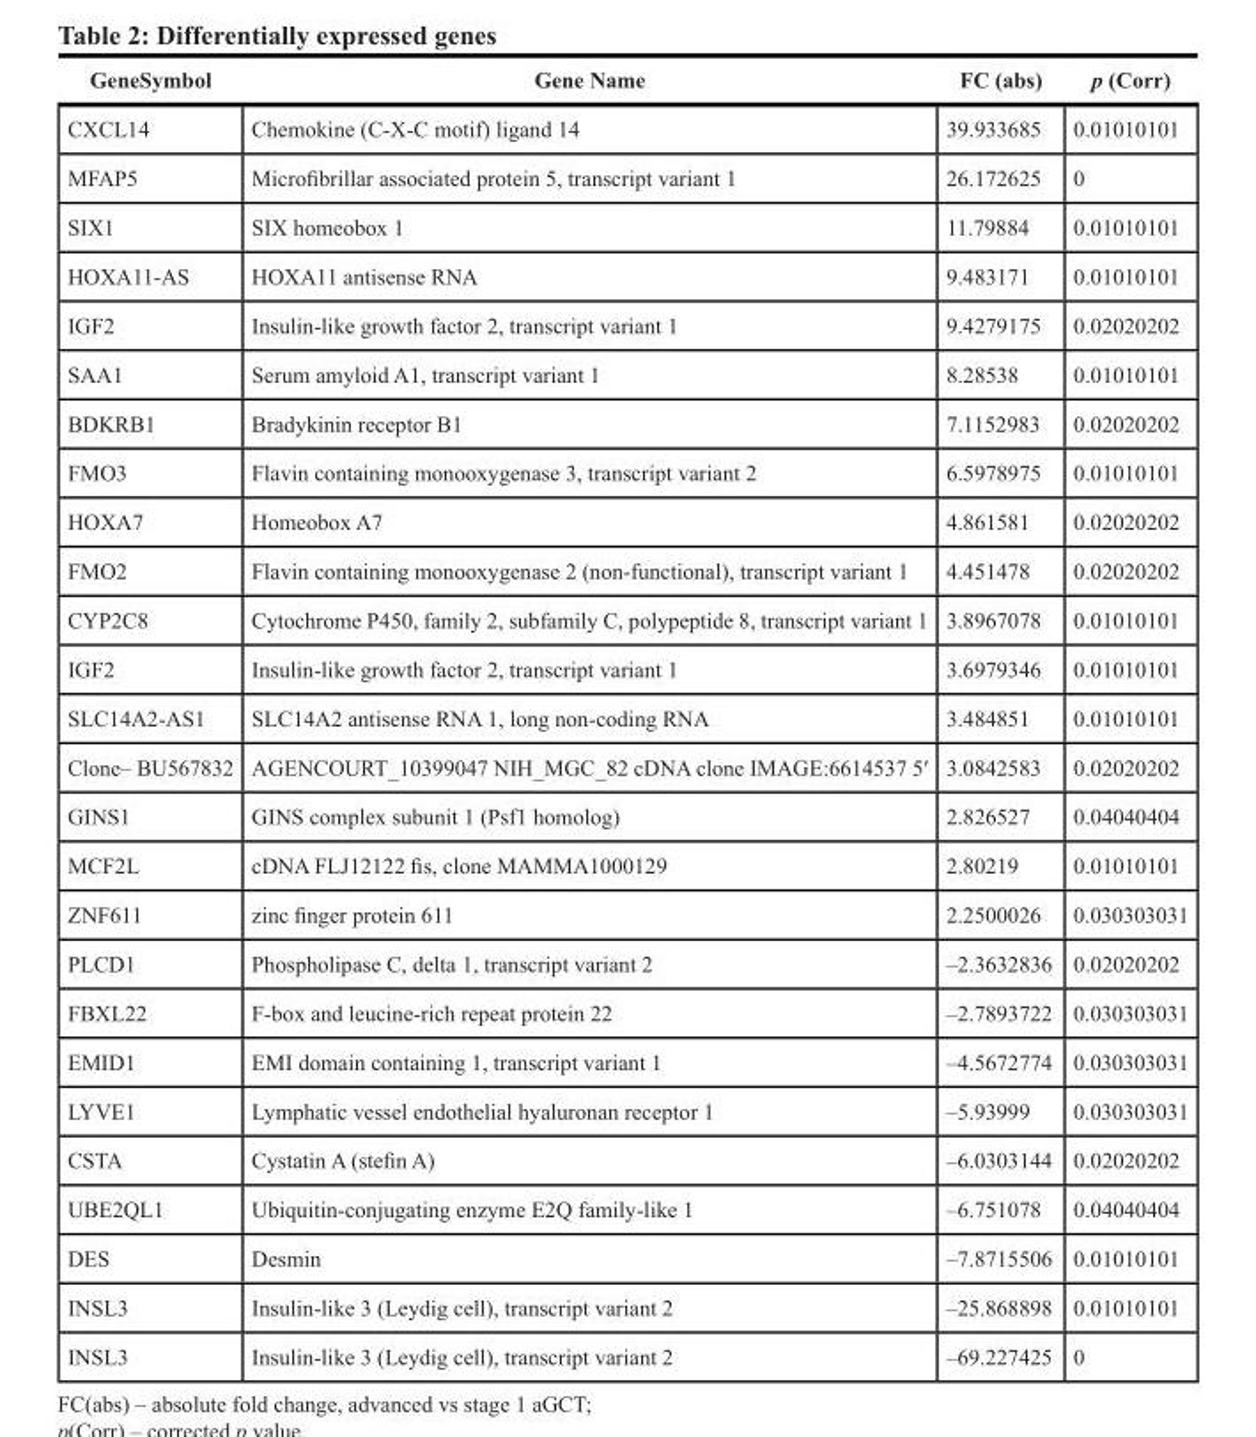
<table><thead><tr><td>GeneSymbol</td><td>Gene Name</td><td>FC (abs)</td><td>p (Corr)</td></tr></thead><tbody><tr><td>CXCL14</td><td>Chemokine (C-X-C motif) ligand 14</td><td>39.933685</td><td>0.01010101</td></tr><tr><td>MFAP5</td><td>Microfibrillar associated protein 5, transcript variant 1</td><td>26.172625</td><td>0</td></tr><tr><td>SIX1</td><td>SIX homeobox 1</td><td>11.79884</td><td>0.01010101</td></tr><tr><td>HOXA11-AS</td><td>HOXA11 antisense RNA</td><td>9.483171</td><td>0.01010101</td></tr><tr><td>IGF2</td><td>Insulin-like growth factor 2, transcript variant 1</td><td>9.4279175</td><td>0.02020202</td></tr><tr><td>SAA1</td><td>Serum amyloid A1, transcript variant 1</td><td>8.28538</td><td>0.01010101</td></tr><tr><td>BDKRB1</td><td>Bradykinin receptor B1</td><td>7.1152983</td><td>0.02020202</td></tr><tr><td>FMO3</td><td>Flavin containing monooxygenase 3, transcript variant 2</td><td>6.5978975</td><td>0.01010101</td></tr><tr><td>HOXA7</td><td>Homeobox A7</td><td>4.861581</td><td>0.02020202</td></tr><tr><td>FMO2</td><td>Flavin containing monooxygenase 2 (non-functional), transcript variant 1</td><td>4.451478</td><td>0.02020202</td></tr><tr><td>CYP2C8</td><td>Cytochrome P450, family 2, subfamily C, polypeptide 8, transcript variant 1</td><td>3.8967078</td><td>0.01010101</td></tr><tr><td>IGF2</td><td>Insulin-like growth factor 2, transcript variant 1</td><td>3.6979346</td><td>0.01010101</td></tr><tr><td>SLC14A2-AS1</td><td>SLC14A2 antisense RNA 1, long non-coding RNA</td><td>3.484851</td><td>0.01010101</td></tr><tr><td>Clone– BU567832</td><td>AGENCOURT_10399047 NIH_MGC_82 cDNA clone IMAGE:6614537 5′</td><td>3.0842583</td><td>0.02020202</td></tr><tr><td>GINS1</td><td>GINS complex subunit 1 (Psf1 homolog)</td><td>2.826527</td><td>0.04040404</td></tr><tr><td>MCF2L</td><td>cDNA FLJ12122 fis, clone MAMMA1000129</td><td>2.80219</td><td>0.01010101</td></tr><tr><td>ZNF611</td><td>zinc finger protein 611</td><td>2.2500026</td><td>0.030303031</td></tr><tr><td>PLCD1</td><td>Phospholipase C, delta 1, transcript variant 2</td><td>–2.3632836</td><td>0.02020202</td></tr><tr><td>FBXL22</td><td>F-box and leucine-rich repeat protein 22</td><td>–2.7893722</td><td>0.030303031</td></tr><tr><td>EMID1</td><td>EMI domain containing 1, transcript variant 1</td><td>–4.5672774</td><td>0.030303031</td></tr><tr><td>LYVE1</td><td>Lymphatic vessel endothelial hyaluronan receptor 1</td><td>–5.93999</td><td>0.030303031</td></tr><tr><td>CSTA</td><td>Cystatin A (stefin A)</td><td>–6.0303144</td><td>0.02020202</td></tr><tr><td>UBE2QL1</td><td>Ubiquitin-conjugating enzyme E2Q family-like 1</td><td>–6.751078</td><td>0.04040404</td></tr><tr><td>DES</td><td>Desmin</td><td>–7.8715506</td><td>0.01010101</td></tr><tr><td>INSL3</td><td>Insulin-like 3 (Leydig cell), transcript variant 2</td><td>–25.868898</td><td>0.01010101</td></tr><tr><td>INSL3</td><td>Insulin-like 3 (Leydig cell), transcript variant 2</td><td>–69.227425</td><td>0</td></tr></tbody></table>